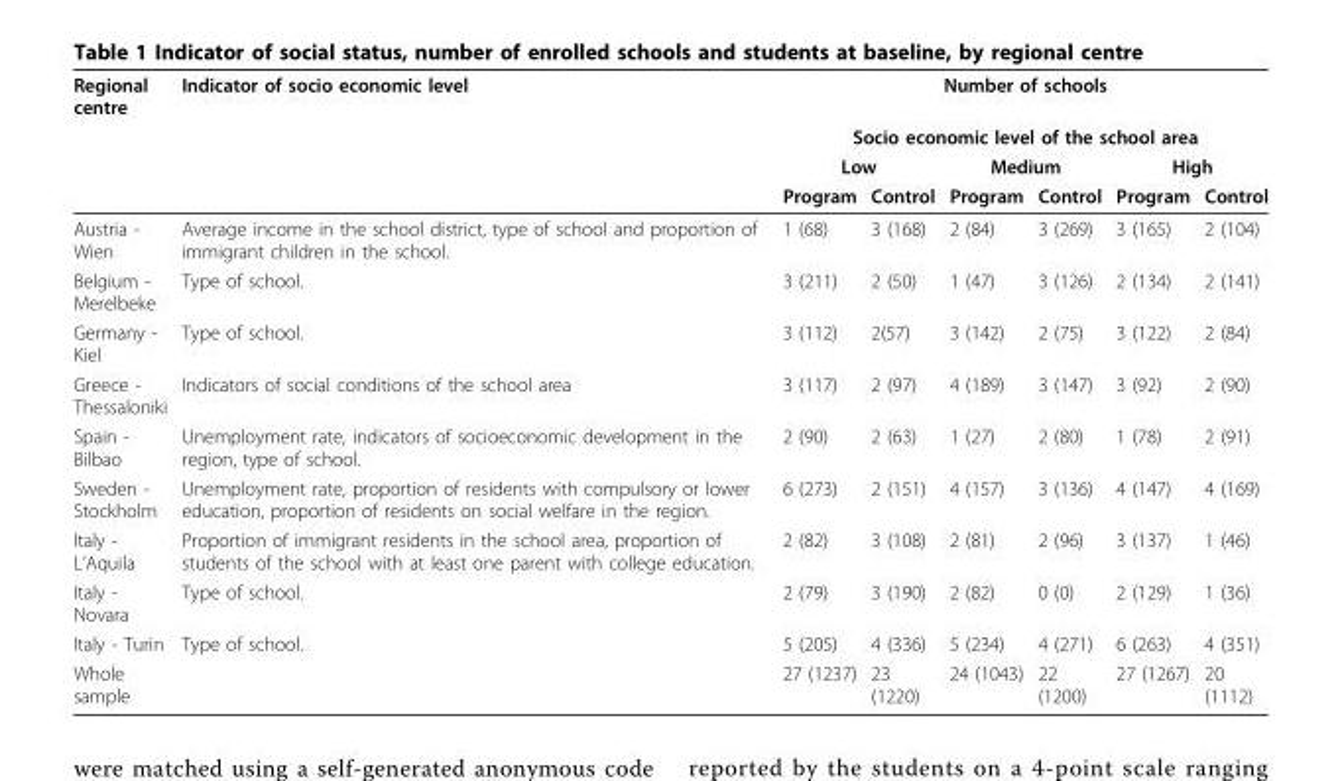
<table><thead><tr><td rowspan="4">Regional centre</td><td rowspan="4">Indicator of socio economic level</td><td rowspan="2" colspan="6">Number of schools Socio economic level of the school area</td></tr><tr></tr><tr><td colspan="2">Low</td><td colspan="2">Medium</td><td colspan="2">High</td></tr><tr><td>Program</td><td>Control</td><td>Program</td><td>Control</td><td>Program</td><td>Control</td></tr></thead><tbody><tr><td>Austria - Wien</td><td>Average income in the school district, type of school and proportion of immigrant children in the school.</td><td>1 (68)</td><td>3 (168)</td><td>2 (84)</td><td>3 (269)</td><td>3 (165)</td><td>2 (104)</td></tr><tr><td>Belgium - Merelbeke</td><td>Type of school.</td><td>3 (211)</td><td>2 (50)</td><td>1 (47)</td><td>3 (126)</td><td>2 (134)</td><td>2 (141)</td></tr><tr><td>Germany - Kiel</td><td>Type of school.</td><td>3 (112)</td><td>2(57)</td><td>3 (142)</td><td>2 (75)</td><td>3 (122)</td><td>2 (84)</td></tr><tr><td>Greece - Thessaloniki</td><td>Indicators of social conditions of the school area</td><td>3 (117)</td><td>2 (97)</td><td>4 (189)</td><td>3 (147)</td><td>3 (92)</td><td>2 (90)</td></tr><tr><td>Spain - Bilbao</td><td>Unemployment rate, indicators of socioeconomic development in the region, type of school.</td><td>2 (90)</td><td>2 (63)</td><td>1 (27)</td><td>2 (80)</td><td>1 (78)</td><td>2 (91)</td></tr><tr><td>Sweden - Stockholm</td><td>Unemployment rate, proportion of residents with compulsory or lower education, proportion of residents on social welfare in the region.</td><td>6 (273)</td><td>2 (151)</td><td>4 (157)</td><td>3 (136)</td><td>4 (147)</td><td>4 (169)</td></tr><tr><td>Italy - L’Aquila</td><td>Proportion of immigrant residents in the school area, proportion of students of the school with at least one parent with college education.</td><td>2 (82)</td><td>3 (108)</td><td>2 (81)</td><td>2 (96)</td><td>3 (137)</td><td>1 (46)</td></tr><tr><td>Italy - Novara</td><td>Type of school.</td><td>2 (79)</td><td>3 (190)</td><td>2 (82)</td><td>0 (0)</td><td>2 (129)</td><td>1 (36)</td></tr><tr><td>Italy - Turin</td><td>Type of school.</td><td>5 (205)</td><td>4 (336)</td><td>5 (234)</td><td>4 (271)</td><td>6 (263)</td><td>4 (351)</td></tr><tr><td>Whole sample</td><td></td><td>27 (1237)</td><td>23 (1220)</td><td>24 (1043)</td><td>22 (1200)</td><td>27 (1267)</td><td>20 (1112)</td></tr></tbody></table>